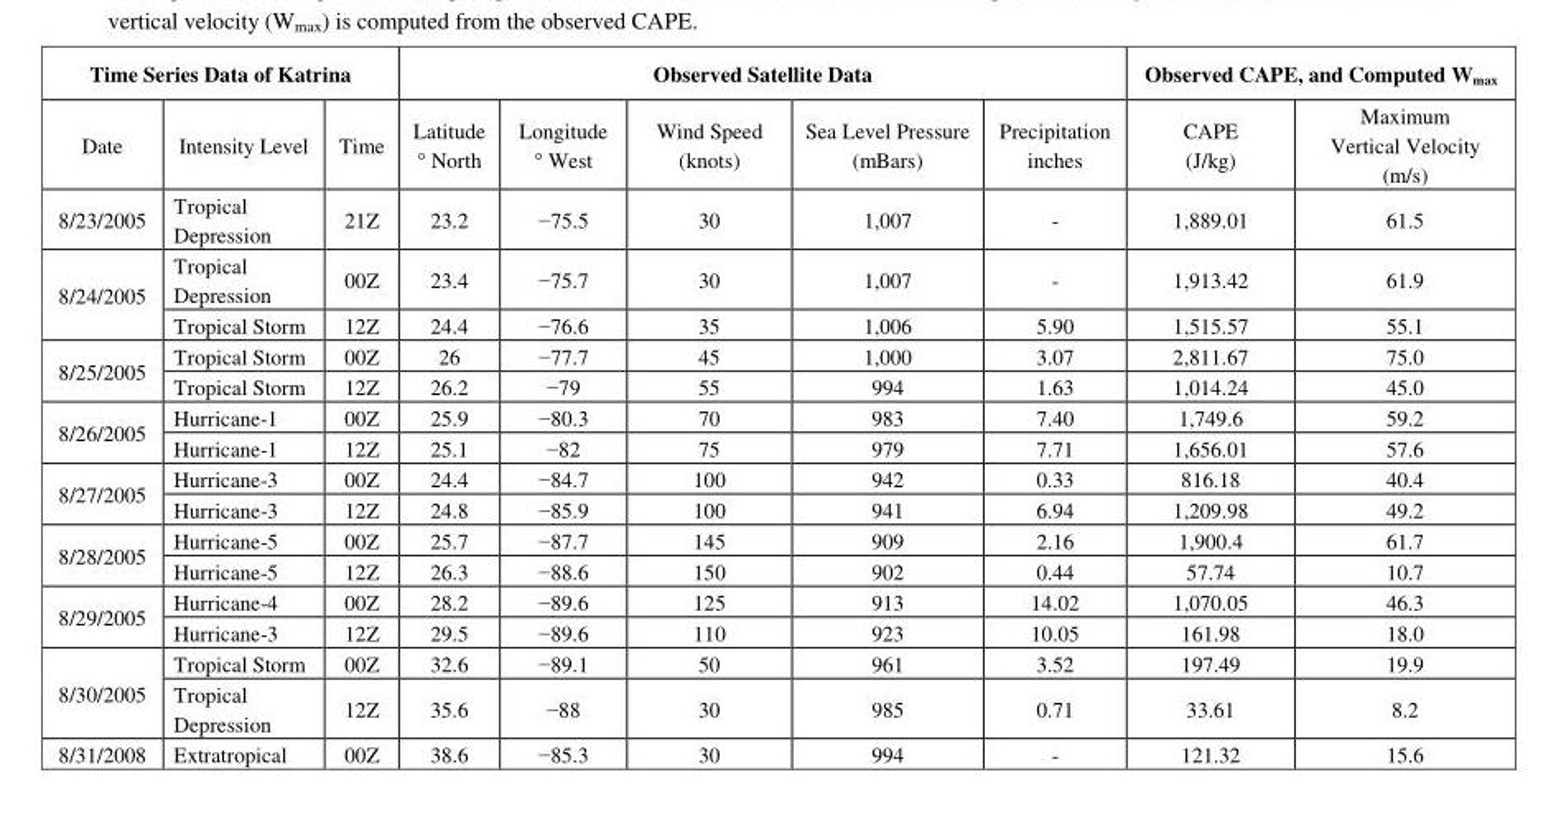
<table><thead><tr><td colspan="3">Time Series Data of Katrina</td><td colspan="5">Observed Satellite Data</td><td colspan="2">Observed CAPE, and Computed W<sub>max</sub></td></tr><tr><td>Date</td><td>Intensity Level</td><td>Time</td><td>Latitude ° North</td><td>Longitude ° West</td><td>Wind Speed (knots)</td><td>Sea Level Pressure (mBars)</td><td>Precipitation inches</td><td>CAPE (J/kg)</td><td>Maximum Vertical Velocity (m/s)</td></tr></thead><tbody><tr><td>8/23/2005</td><td>Tropical Depression</td><td>21Z</td><td>23.2</td><td>−75.5</td><td>30</td><td>1,007</td><td>-</td><td>1,889.01</td><td>61.5</td></tr><tr><td rowspan="2">8/24/2005</td><td>Tropical Depression</td><td>00Z</td><td>23.4</td><td>−75.7</td><td>30</td><td>1,007</td><td>-</td><td>1,913.42</td><td>61.9</td></tr><tr><td>Tropical Storm</td><td>12Z</td><td>24.4</td><td>−76.6</td><td>35</td><td>1,006</td><td>5.90</td><td>1,515.57</td><td>55.1</td></tr><tr><td rowspan="2">8/25/2005</td><td>Tropical Storm</td><td>00Z</td><td>26</td><td>−77.7</td><td>45</td><td>1,000</td><td>3.07</td><td>2,811.67</td><td>75.0</td></tr><tr><td>Tropical Storm</td><td>12Z</td><td>26.2</td><td>−79</td><td>55</td><td>994</td><td>1.63</td><td>1,014.24</td><td>45.0</td></tr><tr><td rowspan="2">8/26/2005</td><td>Hurricane-1</td><td>00Z</td><td>25.9</td><td>−80.3</td><td>70</td><td>983</td><td>7.40</td><td>1,749.6</td><td>59.2</td></tr><tr><td>Hurricane-1</td><td>12Z</td><td>25.1</td><td>−82</td><td>75</td><td>979</td><td>7.71</td><td>1,656.01</td><td>57.6</td></tr><tr><td rowspan="2">8/27/2005</td><td>Hurricane-3</td><td>00Z</td><td>24.4</td><td>−84.7</td><td>100</td><td>942</td><td>0.33</td><td>816.18</td><td>40.4</td></tr><tr><td>Hurricane-3</td><td>12Z</td><td>24.8</td><td>−85.9</td><td>100</td><td>941</td><td>6.94</td><td>1,209.98</td><td>49.2</td></tr><tr><td rowspan="2">8/28/2005</td><td>Hurricane-5</td><td>00Z</td><td>25.7</td><td>−87.7</td><td>145</td><td>909</td><td>2.16</td><td>1,900.4</td><td>61.7</td></tr><tr><td>Hurricane-5</td><td>12Z</td><td>26.3</td><td>−88.6</td><td>150</td><td>902</td><td>0.44</td><td>57.74</td><td>10.7</td></tr><tr><td rowspan="2">8/29/2005</td><td>Hurricane-4</td><td>00Z</td><td>28.2</td><td>−89.6</td><td>125</td><td>913</td><td>14.02</td><td>1,070.05</td><td>46.3</td></tr><tr><td>Hurricane-3</td><td>12Z</td><td>29.5</td><td>−89.6</td><td>110</td><td>923</td><td>10.05</td><td>161.98</td><td>18.0</td></tr><tr><td rowspan="2">8/30/2005</td><td>Tropical Storm</td><td>00Z</td><td>32.6</td><td>−89.1</td><td>50</td><td>961</td><td>3.52</td><td>197.49</td><td>19.9</td></tr><tr><td>Tropical Depression</td><td>12Z</td><td>35.6</td><td>−88</td><td>30</td><td>985</td><td>0.71</td><td>33.61</td><td>8.2</td></tr><tr><td>8/31/2008</td><td>Extratropical</td><td>00Z</td><td>38.6</td><td>−85.3</td><td>30</td><td>994</td><td>-</td><td>121.32</td><td>15.6</td></tr></tbody></table>